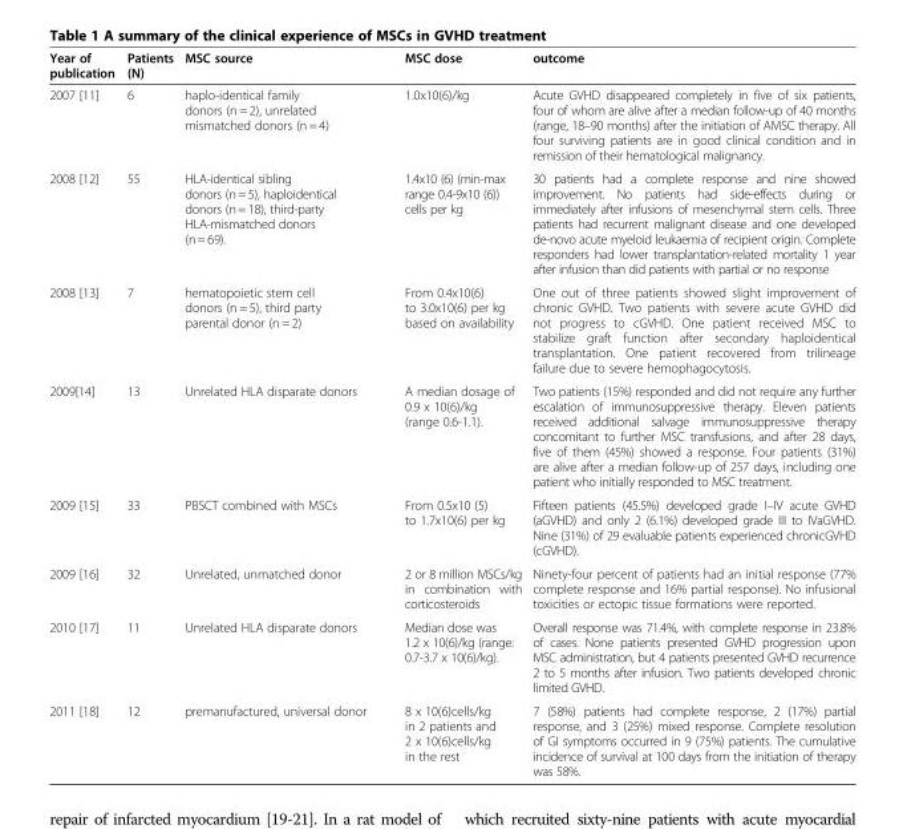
<table><thead><tr><td>Year of publication</td><td>Patients (N)</td><td>MSC source</td><td>MSC dose</td><td>outcome</td></tr></thead><tbody><tr><td>2007 [11]</td><td>6</td><td>haplo-identical family donors (n = 2), unrelated mismatched donors (n = 4)</td><td>1.0x10(6)/kg</td><td>Acute GVHD disappeared completely in five of six patients, four of whom are alive after a median follow-up of 40 months (range, 18–90 months) after the initiation of AMSC therapy. All four surviving patients are in good clinical condition and in remission of their hematological malignancy.</td></tr><tr><td>2008 [12]</td><td>55</td><td>HLA-identical sibling donors (n= 5), haploidentical donors (n= 18), third-party HLA-mismatched donors (n= 69).</td><td>1.4x10 (6) (min-max range 0.4-9x10 (6)) cells per kg</td><td>30 patients had a complete response and nine showed improvement. No patients had side-effects during or immediately after infusions of mesenchymal stem cells. Three patients had recurrent malignant disease and one developed de-novo acute myeloid leukaemia of recipient origin. Complete responders had lower transplantation-related mortality 1 year after infusion than did patients with partial or no response</td></tr><tr><td>2008 [13]</td><td>7</td><td>hematopoietic stem cell donors (n = 5), third party parental donor (n = 2)</td><td>From 0.4x10(6) to 3.0x10(6) per kg based on availability</td><td>One out of three patients showed slight improvement of chronic GVHD. Two patients with severe acute GVHD did not progress to cGVHD. One patient received MSC to stabilize graft function after secondary haploidentical transplantation. One patient recovered from trilineage failure due to severe hemophagocytosis.</td></tr><tr><td>2009[14]</td><td>13</td><td>Unrelated HLA disparate donors</td><td>A median dosage of 0.9 x 10(6)/kg (range 0.6-1.1).</td><td>Two patients (15%) responded and did not require any further escalation of immunosuppressive therapy. Eleven patients received additional salvage immunosuppressive therapy concomitant to further MSC transfusions, and after 28 days, five of them (45%) showed a response. Four patients (31%) are alive after a median follow-up of 257 days, including one patient who initially responded to MSC treatment.</td></tr><tr><td>2009 [15]</td><td>33</td><td>PBSCT combined with MSCs</td><td>From 0.5x10 (5) to 1.7x10(6) per kg</td><td>Fifteen patients (45.5%) developed grade I–IV acute GVHD (aGVHD) and only 2 (6.1%) developed grade III to IVaGVHD. Nine (31%) of 29 evaluable patients experienced chronicGVHD (cGVHD).</td></tr><tr><td>2009 [16]</td><td>32</td><td>Unrelated, unmatched donor</td><td>2 or 8 million MSCs/kg in combination with corticosteroids</td><td>Ninety-four percent of patients had an initial response (77% complete response and 16% partial response). No infusional toxicities or ectopic tissue formations were reported.</td></tr><tr><td>2010 [17]</td><td>11</td><td>Unrelated HLA disparate donors</td><td>Median dose was 1.2 x 10(6)/kg (range: 0.7-3.7 x 10(6)/kg).</td><td>Overall response was 71.4%, with complete response in 23.8% of cases. None patients presented GVHD progression upon MSC administration, but 4 patients presented GVHD recurrence 2 to 5 months after infusion. Two patients developed chronic limited GVHD.</td></tr><tr><td>2011 [18]</td><td>12</td><td>premanufactured, universal donor</td><td>8 x 10(6)cells/kg in 2 patients and 2 x 10(6)cells/kg in the rest</td><td>7 (58%) patients had complete response, 2 (17%) partial response, and 3 (25%) mixed response. Complete resolution of GI symptoms occurred in 9 (75%) patients. The cumulative incidence of survival at 100 days from the initiation of therapy was 58%.</td></tr></tbody></table>